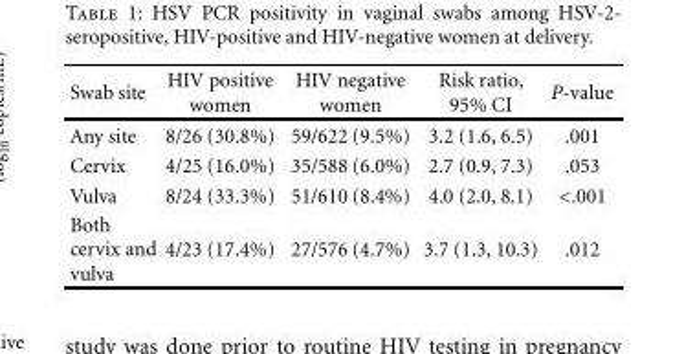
<table><thead><tr><td>Swab site</td><td>HIV positive women</td><td>HIV negative women</td><td>Risk ratio, 95% CI</td><td>P-value</td></tr></thead><tbody><tr><td>Any site</td><td>8/26 (30.8%)</td><td>59/622 (9.5%)</td><td>3.2 (1.6, 6.5)</td><td>.001</td></tr><tr><td>Cervix</td><td>4/25 (16.0%)</td><td>35/588 (6.0%)</td><td>2.7 (0.9, 7.3)</td><td>.053</td></tr><tr><td>Vulva</td><td>8/24 (33.3%)</td><td>51/610 (8.4%)</td><td>4.0 (2.0, 8.1)</td><td>&lt;.001</td></tr><tr><td>Both cervix and vulva</td><td>4/23 (17.4%)</td><td>27/576 (4.7%)</td><td>3.7 (1.3, 10.3)</td><td>.012</td></tr></tbody></table>